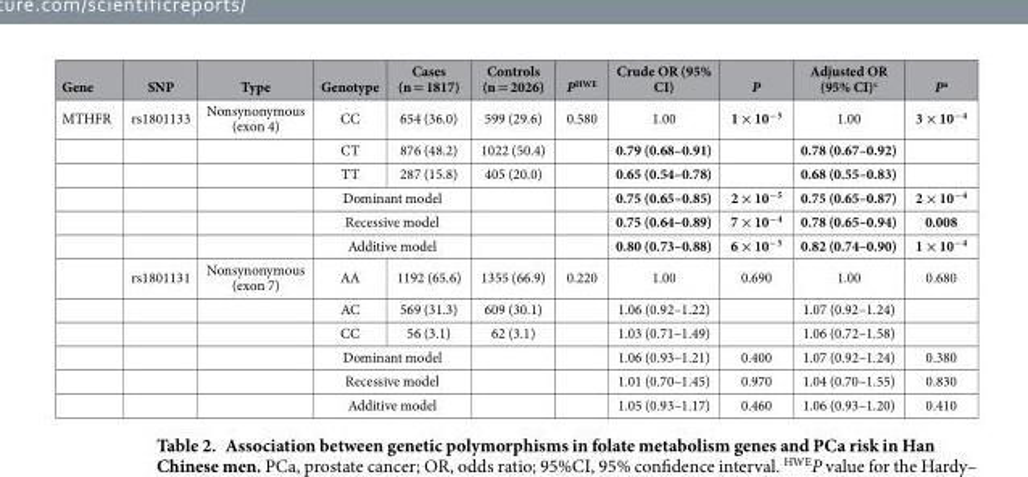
<table><thead><tr><td>Gene</td><td>SNP</td><td>Type</td><td>Genotype</td><td>Cases (n = 1817)</td><td>Controls (n = 2026)</td><td>P<sup>HWE</sup></td><td>Crude OR (95% CI)</td><td>P</td><td>Adjusted OR (95% CI)<sup>c</sup></td><td>P<sup>a</sup></td></tr></thead><tbody><tr><td rowspan="12">MTHFR</td><td>rs1801133</td><td>Nonsynonymous (exon 4)</td><td>CC</td><td>654 (36.0)</td><td>599 (29.6)</td><td>0.580</td><td>1.00</td><td>1 × 10<sup>−5</sup></td><td>1.00</td><td>3 × 10<sup>−4</sup></td></tr><tr><td></td><td></td><td>CT</td><td>876 (48.2)</td><td>1022 (50.4)</td><td></td><td>0.79 (0.68–0.91)</td><td></td><td>0.78 (0.67–0.92)</td><td></td></tr><tr><td></td><td></td><td>TT</td><td>287 (15.8)</td><td>405 (20.0)</td><td></td><td>0.65 (0.54–0.78)</td><td></td><td>0.68 (0.55–0.83)</td><td></td></tr><tr><td></td><td></td><td colspan="2">Dominant model</td><td></td><td></td><td>0.75 (0.65–0.85)</td><td>2 × 10<sup>−5</sup></td><td>0.75 (0.65–0.87)</td><td>2 × 10<sup>−4</sup></td></tr><tr><td></td><td></td><td colspan="2">Recessive model</td><td></td><td></td><td>0.75 (0.64–0.89)</td><td>7 × 10<sup>−4</sup></td><td>0.78 (0.65–0.94)</td><td>0.008</td></tr><tr><td></td><td></td><td colspan="2">Additive model</td><td></td><td></td><td>0.80 (0.73–0.88)</td><td>6 × 10<sup>−5</sup></td><td>0.82 (0.74–0.90)</td><td>1 × 10<sup>−4</sup></td></tr><tr><td>rs1801131</td><td>Nonsynonymous (exon 7)</td><td>AA</td><td>1192 (65.6)</td><td>1355 (66.9)</td><td>0.220</td><td>1.00</td><td>0.690</td><td>1.00</td><td>0.680</td></tr><tr><td></td><td></td><td>AC</td><td>569 (31.3)</td><td>609 (30.1)</td><td></td><td>1.06 (0.92–1.22)</td><td></td><td>1.07 (0.92–1.24)</td><td></td></tr><tr><td></td><td></td><td>CC</td><td>56 (3.1)</td><td>62 (3.1)</td><td></td><td>1.03 (0.71–1.49)</td><td></td><td>1.06 (0.72–1.58)</td><td></td></tr><tr><td></td><td></td><td colspan="2">Dominant model</td><td></td><td></td><td>1.06 (0.93–1.21)</td><td>0.400</td><td>1.07 (0.92–1.24)</td><td>0.380</td></tr><tr><td></td><td></td><td colspan="2">Recessive model</td><td></td><td></td><td>1.01 (0.70–1.45)</td><td>0.970</td><td>1.04 (0.70–1.55)</td><td>0.830</td></tr><tr><td></td><td></td><td colspan="2">Additive model</td><td></td><td></td><td>1.05 (0.93–1.17)</td><td>0.460</td><td>1.06 (0.93–1.20)</td><td>0.410</td></tr></tbody></table>